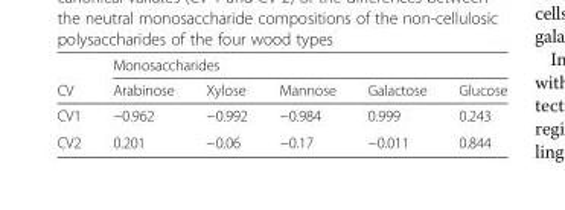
<table><thead><tr><td rowspan="2">CV</td><td colspan="5">Monosaccharides</td></tr><tr><td>Arabinose</td><td>Xylose</td><td>Mannose</td><td>Galactose</td><td>Glucose</td></tr></thead><tbody><tr><td>CV1</td><td>−0.962</td><td>−0.992</td><td>−0.984</td><td>0.999</td><td>0.243</td></tr><tr><td>CV2</td><td>0.201</td><td>−0.06</td><td>−0.17</td><td>−0.011</td><td>0.844</td></tr></tbody></table>